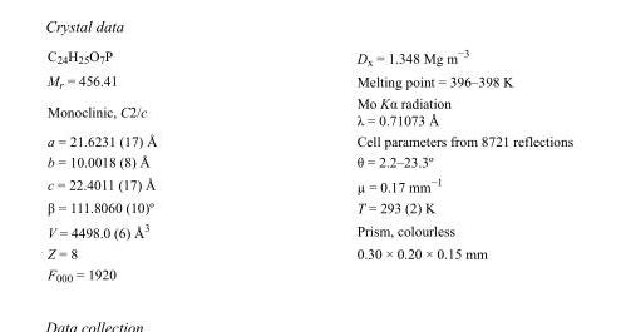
<table><tbody><tr><td>C<sub>24</sub>H<sub>25</sub>O<sub>7</sub>P</td><td>D<sub>x</sub> = 1.348 Mg m<sup>−3</sup></td></tr><tr><td>M<sub>r</sub> = 456.41</td><td>Melting point = 396–398 K</td></tr><tr><td>Monoclinic, C2/c</td><td>Mo Kα radiation λ = 0.71073 Å</td></tr><tr><td>a = 21.6231 (17) Å</td><td>Cell parameters from 8721 reflections</td></tr><tr><td>b = 10.0018 (8) Å</td><td>θ = 2.2–23.3º</td></tr><tr><td>c = 22.4011 (17) Å</td><td>µ = 0.17 mm<sup>−1</sup></td></tr><tr><td>β = 111.8060 (10)º</td><td>T = 293 (2) K</td></tr><tr><td>V = 4498.0 (6) Å<sup>3</sup></td><td>Prism, colourless</td></tr><tr><td>Z = 8</td><td>0.30 × 0.20 × 0.15 mm</td></tr><tr><td>F<sub>000</sub> = 1920</td><td></td></tr></tbody></table>